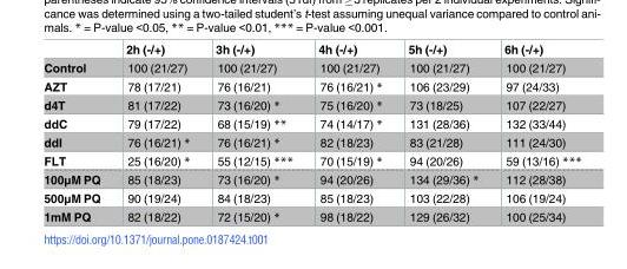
<table><thead><tr><td></td><td>2h (-/+)</td><td>3h (-/+)</td><td>4h (-/+)</td><td>5h (-/+)</td><td>6h (-/+)</td></tr></thead><tbody><tr><td>Control</td><td>100 (21/27)</td><td>100 (21/27)</td><td>100 (21/27)</td><td>100 (21/27)</td><td>100 (21/27)</td></tr><tr><td>AZT</td><td>78 (17/21)</td><td>76 (16/21)</td><td>76 (16/21) *</td><td>106 (23/29)</td><td>97 (24/33)</td></tr><tr><td>d4T</td><td>81 (17/22)</td><td>73 (16/20) *</td><td>75 (16/20) *</td><td>73 (18/25)</td><td>107 (22/27)</td></tr><tr><td>ddC</td><td>79 (17/22)</td><td>68 (15/19) **</td><td>74 (14/17) *</td><td>131 (28/36)</td><td>132 (33/44)</td></tr><tr><td>ddI</td><td>76 (16/21) *</td><td>76 (16/21) *</td><td>82 (18/23)</td><td>83 (21/28)</td><td>111 (24/30)</td></tr><tr><td>FLT</td><td>25 (16/20) *</td><td>55 (12/15) ***</td><td>70 (15/19) *</td><td>94 (20/26)</td><td>59 (13/16) ***</td></tr><tr><td>100μM PQ</td><td>85 (18/23)</td><td>73 (16/20) *</td><td>94 (20/26)</td><td>134 (29/36) *</td><td>112 (28/38)</td></tr><tr><td>500μM PQ</td><td>90 (19/24)</td><td>84 (18/23)</td><td>85 (18/23)</td><td>103 (22/28)</td><td>106 (19/24)</td></tr><tr><td>1mM PQ</td><td>82 (18/22)</td><td>72 (15/20) *</td><td>98 (18/22)</td><td>129 (26/32)</td><td>100 (25/34)</td></tr></tbody></table>